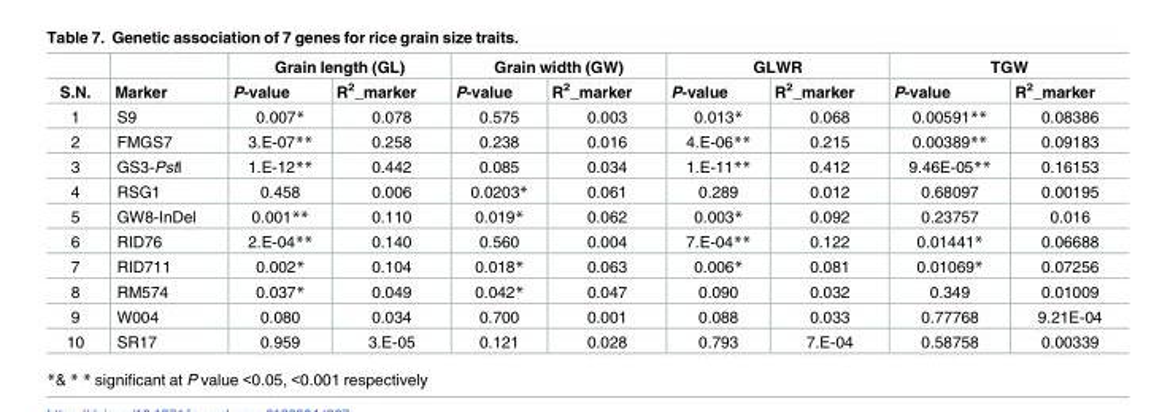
<table><thead><tr><td rowspan="2">S.N.</td><td rowspan="2">Marker</td><td colspan="2">Grain length (GL)</td><td colspan="2">Grain width (GW)</td><td colspan="2">GLWR</td><td colspan="2">TGW</td></tr><tr><td>P-value</td><td>R<sup>2</sup>_marker</td><td>P-value</td><td>R<sup>2</sup>_marker</td><td>P-value</td><td>R<sup>2</sup>_marker</td><td>P-value</td><td>R<sup>2</sup>_marker</td></tr></thead><tbody><tr><td>1</td><td>S9</td><td>0.007*</td><td>0.078</td><td>0.575</td><td>0.003</td><td>0.013*</td><td>0.068</td><td>0.00591**</td><td>0.08386</td></tr><tr><td>2</td><td>FMGS7</td><td>3.E-07**</td><td>0.258</td><td>0.238</td><td>0.016</td><td>4.E-06**</td><td>0.215</td><td>0.00389**</td><td>0.09183</td></tr><tr><td>3</td><td>GS3-PstI</td><td>1.E-12**</td><td>0.442</td><td>0.085</td><td>0.034</td><td>1.E-11**</td><td>0.412</td><td>9.46E-05**</td><td>0.16153</td></tr><tr><td>4</td><td>RSG1</td><td>0.458</td><td>0.006</td><td>0.0203*</td><td>0.061</td><td>0.289</td><td>0.012</td><td>0.68097</td><td>0.00195</td></tr><tr><td>5</td><td>GW8-InDel</td><td>0.001**</td><td>0.110</td><td>0.019*</td><td>0.062</td><td>0.003*</td><td>0.092</td><td>0.23757</td><td>0.016</td></tr><tr><td>6</td><td>RID76</td><td>2.E-04**</td><td>0.140</td><td>0.560</td><td>0.004</td><td>7.E-04**</td><td>0.122</td><td>0.01441*</td><td>0.06688</td></tr><tr><td>7</td><td>RID711</td><td>0.002*</td><td>0.104</td><td>0.018*</td><td>0.063</td><td>0.006*</td><td>0.081</td><td>0.01069*</td><td>0.07256</td></tr><tr><td>8</td><td>RM574</td><td>0.037*</td><td>0.049</td><td>0.042*</td><td>0.047</td><td>0.090</td><td>0.032</td><td>0.349</td><td>0.01009</td></tr><tr><td>9</td><td>W004</td><td>0.080</td><td>0.034</td><td>0.700</td><td>0.001</td><td>0.088</td><td>0.033</td><td>0.77768</td><td>9.21E-04</td></tr><tr><td>10</td><td>SR17</td><td>0.959</td><td>3.E-05</td><td>0.121</td><td>0.028</td><td>0.793</td><td>7.E-04</td><td>0.58758</td><td>0.00339</td></tr></tbody></table>